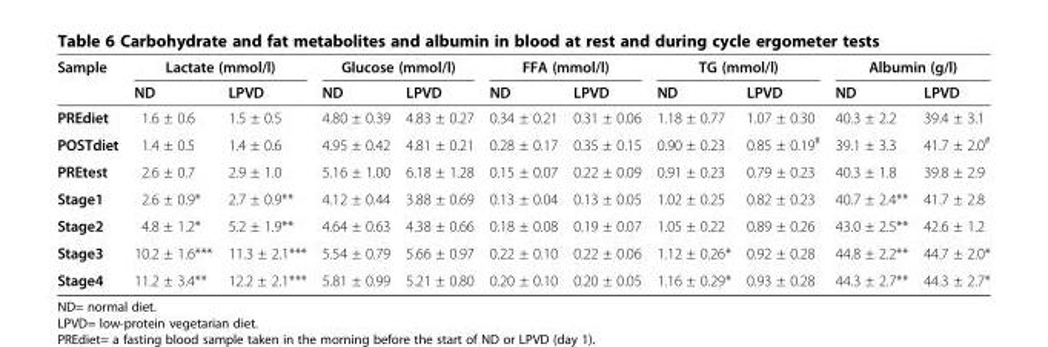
<table><thead><tr><td rowspan="2">Sample</td><td colspan="2">Lactate (mmol/l)</td><td colspan="2">Glucose (mmol/l)</td><td colspan="2">FFA (mmol/l)</td><td colspan="2">TG (mmol/l)</td><td colspan="2">Albumin (g/l)</td></tr><tr><td>ND</td><td>LPVD</td><td>ND</td><td>LPVD</td><td>ND</td><td>LPVD</td><td>ND</td><td>LPVD</td><td>ND</td><td>LPVD</td></tr></thead><tbody><tr><td>PREdiet</td><td>1.6 ± 0.6</td><td>1.5 ± 0.5</td><td>4.80 ± 0.39</td><td>4.83 ± 0.27</td><td>0.34 ± 0.21</td><td>0.31 ± 0.06</td><td>1.18 ± 0.77</td><td>1.07 ± 0.30</td><td>40.3 ± 2.2</td><td>39.4 ± 3.1</td></tr><tr><td>POSTdiet</td><td>1.4 ± 0.5</td><td>1.4 ± 0.6</td><td>4.95 ± 0.42</td><td>4.81 ± 0.21</td><td>0.28 ± 0.17</td><td>0.35 ± 0.15</td><td>0.90 ± 0.23</td><td>0.85 ± 0.19<sup>#</sup></td><td>39.1 ± 3.3</td><td>41.7 ± 2.0<sup>#</sup></td></tr><tr><td>PREtest</td><td>2.6 ± 0.7</td><td>2.9 ± 1.0</td><td>5.16 ± 1.00</td><td>6.18 ± 1.28</td><td>0.15 ± 0.07</td><td>0.22 ± 0.09</td><td>0.91 ± 0.23</td><td>0.79 ± 0.23</td><td>40.3 ± 1.8</td><td>39.8 ± 2.9</td></tr><tr><td>Stage1</td><td>2.6 ± 0.9*</td><td>2.7 ± 0.9**</td><td>4.12 ± 0.44</td><td>3.88 ± 0.69</td><td>0.13 ± 0.04</td><td>0.13 ± 0.05</td><td>1.02 ± 0.25</td><td>0.82 ± 0.23</td><td>40.7 ± 2.4**</td><td>41.7 ± 2.8</td></tr><tr><td>Stage2</td><td>4.8 ± 1.2*</td><td>5.2 ± 1.9**</td><td>4.64 ± 0.63</td><td>4.38 ± 0.66</td><td>0.18 ± 0.08</td><td>0.19 ± 0.07</td><td>1.05 ± 0.22</td><td>0.89 ± 0.26</td><td>43.0 ± 2.5**</td><td>42.6 ± 1.2</td></tr><tr><td>Stage3</td><td>10.2 ± 1.6***</td><td>11.3 ± 2.1***</td><td>5.54 ± 0.79</td><td>5.66 ± 0.97</td><td>0.22 ± 0.10</td><td>0.22 ± 0.06</td><td>1.12 ± 0.26*</td><td>0.92 ± 0.28</td><td>44.8 ± 2.2**</td><td>44.7 ± 2.0*</td></tr><tr><td>Stage4</td><td>11.2 ± 3.4**</td><td>12.2 ± 2.1***</td><td>5.81 ± 0.99</td><td>5.21 ± 0.80</td><td>0.20 ± 0.10</td><td>0.20 ± 0.05</td><td>1.16 ± 0.29*</td><td>0.93 ± 0.28</td><td>44.3 ± 2.7**</td><td>44.3 ± 2.7*</td></tr></tbody></table>